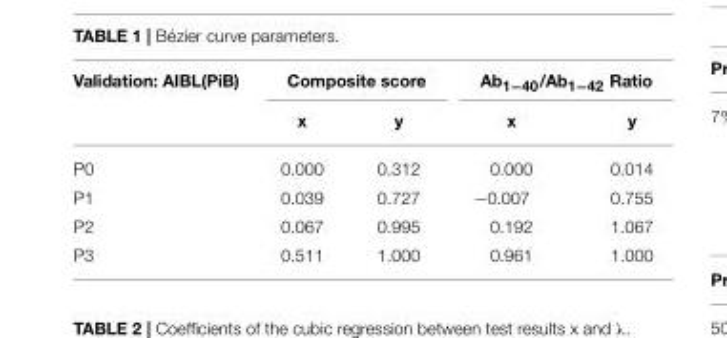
<table><thead><tr><td rowspan="2">Validation: AIBL(PiB)</td><td colspan="2">Composite score</td><td colspan="2">Ab<sub>1−40</sub>/Ab<sub>1−42</sub> Ratio</td></tr><tr><td>x</td><td>y</td><td>x</td><td>y</td></tr></thead><tbody><tr><td>P0</td><td>0.000</td><td>0.312</td><td>0.000</td><td>0.014</td></tr><tr><td>P1</td><td>0.039</td><td>0.727</td><td>−0.007</td><td>0.755</td></tr><tr><td>P2</td><td>0.067</td><td>0.995</td><td>0.192</td><td>1.067</td></tr><tr><td>P3</td><td>0.511</td><td>1.000</td><td>0.961</td><td>1.000</td></tr></tbody></table>